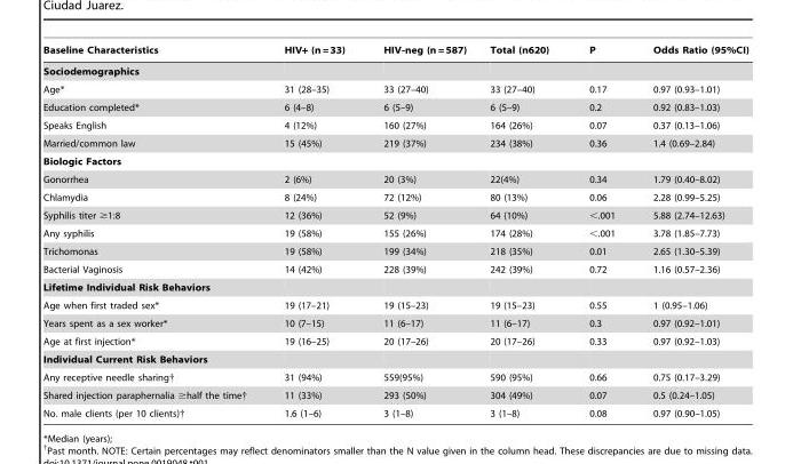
<table><thead><tr><td>Baseline Characteristics</td><td>HIV+ (n = 33)</td><td>HIV-neg (n = 587)</td><td>Total (n620)</td><td>P</td><td>Odds Ratio (95%CI)</td></tr></thead><tbody><tr><td colspan="6">Sociodemographics</td></tr><tr><td>Age*</td><td>31 (28–35)</td><td>33 (27–40)</td><td>33 (27–40)</td><td>0.17</td><td>0.97 (0.93–1.01)</td></tr><tr><td>Education completed*</td><td>6 (4–8)</td><td>6 (5–9)</td><td>6 (5–9)</td><td>0.2</td><td>0.92 (0.83–1.03)</td></tr><tr><td>Speaks English</td><td>4 (12%)</td><td>160 (27%)</td><td>164 (26%)</td><td>0.07</td><td>0.37 (0.13–1.06)</td></tr><tr><td>Married/common law</td><td>15 (45%)</td><td>219 (37%)</td><td>234 (38%)</td><td>0.36</td><td>1.4 (0.69–2.84)</td></tr><tr><td colspan="6">Biologic Factors</td></tr><tr><td>Gonorrhea</td><td>2 (6%)</td><td>20 (3%)</td><td>22(4%)</td><td>0.34</td><td>1.79 (0.40–8.02)</td></tr><tr><td>Chlamydia</td><td>8 (24%)</td><td>72 (12%)</td><td>80 (13%)</td><td>0.06</td><td>2.28 (0.99–5.25)</td></tr><tr><td>Syphilis titer ≥1:8</td><td>12 (36%)</td><td>52 (9%)</td><td>64 (10%)</td><td>&lt;.001</td><td>5.88 (2.74–12.63)</td></tr><tr><td>Any syphilis</td><td>19 (58%)</td><td>155 (26%)</td><td>174 (28%)</td><td>&lt;.001</td><td>3.78 (1.85–7.73)</td></tr><tr><td>Trichomonas</td><td>19 (58%)</td><td>199 (34%)</td><td>218 (35%)</td><td>0.01</td><td>2.65 (1.30–5.39)</td></tr><tr><td>Bacterial Vaginosis</td><td>14 (42%)</td><td>228 (39%)</td><td>242 (39%)</td><td>0.72</td><td>1.16 (0.57–2.36)</td></tr><tr><td colspan="6">Lifetime Individual Risk Behaviors</td></tr><tr><td>Age when first traded sex*</td><td>19 (17–21)</td><td>19 (15–23)</td><td>19 (15–23)</td><td>0.55</td><td>1 (0.95–1.06)</td></tr><tr><td>Years spent as a sex worker*</td><td>10 (7–15)</td><td>11 (6–17)</td><td>11 (6–17)</td><td>0.3</td><td>0.97 (0.92–1.01)</td></tr><tr><td>Age at first injection*</td><td>19 (16–25)</td><td>20 (17–26)</td><td>20 (17–26)</td><td>0.33</td><td>0.97 (0.92–1.03)</td></tr><tr><td colspan="6">Individual Current Risk Behaviors</td></tr><tr><td>Any receptive needle sharing†</td><td>31 (94%)</td><td>559(95%)</td><td>590 (95%)</td><td>0.66</td><td>0.75 (0.17–3.29)</td></tr><tr><td>Shared injection paraphernalia ≥half the time†</td><td>11 (33%)</td><td>293 (50%)</td><td>304 (49%)</td><td>0.07</td><td>0.5 (0.24–1.05)</td></tr><tr><td>No. male clients (per 10 clients)†</td><td>1.6 (1–6)</td><td>3 (1–8)</td><td>3 (1–8)</td><td>0.08</td><td>0.97 (0.90–1.05)</td></tr></tbody></table>